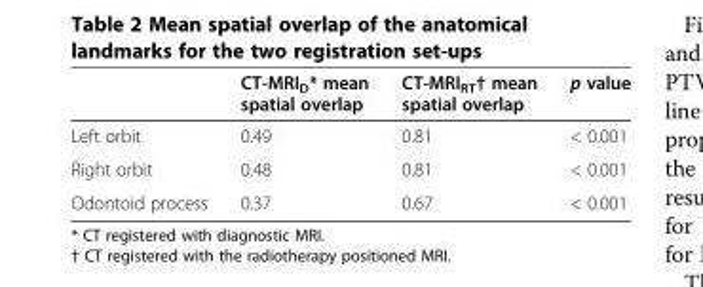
<table><thead><tr><td></td><td>CT-MRI<sub>D</sub>* mean spatial overlap</td><td>CT-MRI<sub>RT</sub>† mean spatial overlap</td><td>p value</td></tr></thead><tbody><tr><td>Left orbit</td><td>0.49</td><td>0.81</td><td>&lt; 0.001</td></tr><tr><td>Right orbit</td><td>0.48</td><td>0.81</td><td>&lt; 0.001</td></tr><tr><td>Odontoid process</td><td>0.37</td><td>0.67</td><td>&lt; 0.001</td></tr></tbody></table>